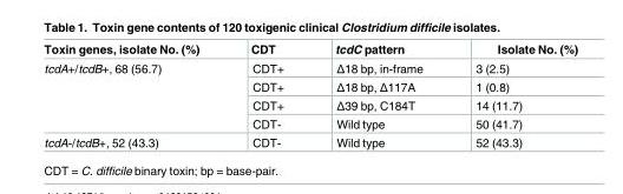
<table><thead><tr><td>Toxin genes, isolate No. (%)</td><td>CDT</td><td>tcdC pattern</td><td>Isolate No. (%)</td></tr></thead><tbody><tr><td rowspan="4">tcdA+/tcdB+, 68 (56.7)</td><td>CDT+</td><td>Δ18 bp, in-frame</td><td>3 (2.5)</td></tr><tr><td>CDT+</td><td>Δ18 bp, Δ117A</td><td>1 (0.8)</td></tr><tr><td>CDT+</td><td>Δ39 bp, C184T</td><td>14 (11.7)</td></tr><tr><td>CDT-</td><td>Wild type</td><td>50 (41.7)</td></tr><tr><td>tcdA-/tcdB+, 52 (43.3)</td><td>CDT-</td><td>Wild type</td><td>52 (43.3)</td></tr></tbody></table>